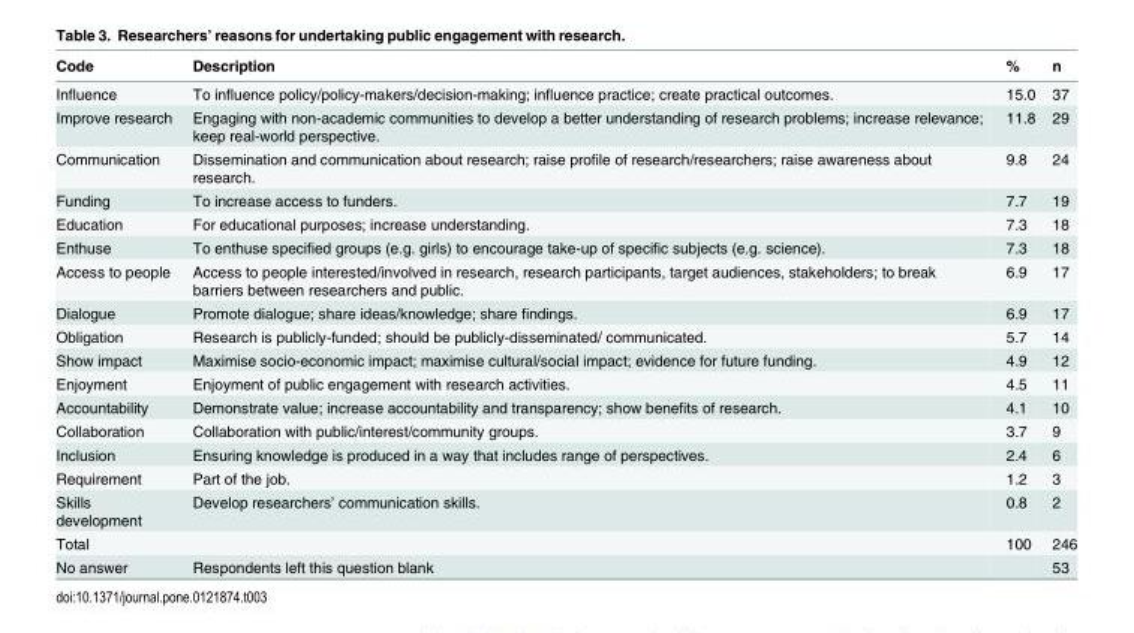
<table><thead><tr><td>Code</td><td>Description</td><td>%</td><td>n</td></tr></thead><tbody><tr><td>Influence</td><td>To influence policy/policy-makers/decision-making; influence practice; create practical outcomes.</td><td>15.0</td><td>37</td></tr><tr><td>Improve research</td><td>Engaging with non-academic communities to develop a better understanding of research problems; increase relevance; keep real-world perspective.</td><td>11.8</td><td>29</td></tr><tr><td>Communication</td><td>Dissemination and communication about research; raise profile of research/researchers; raise awareness about research.</td><td>9.8</td><td>24</td></tr><tr><td>Funding</td><td>To increase access to funders.</td><td>7.7</td><td>19</td></tr><tr><td>Education</td><td>For educational purposes; increase understanding.</td><td>7.3</td><td>18</td></tr><tr><td>Enthuse</td><td>To enthuse specified groups (e.g. girls) to encourage take-up of specific subjects (e.g. science).</td><td>7.3</td><td>18</td></tr><tr><td>Access to people</td><td>Access to people interested/involved in research, research participants, target audiences, stakeholders; to break barriers between researchers and public.</td><td>6.9</td><td>17</td></tr><tr><td>Dialogue</td><td>Promote dialogue; share ideas/knowledge; share findings.</td><td>6.9</td><td>17</td></tr><tr><td>Obligation</td><td>Research is publicly-funded; should be publicly-disseminated/ communicated.</td><td>5.7</td><td>14</td></tr><tr><td>Show impact</td><td>Maximise socio-economic impact; maximise cultural/social impact; evidence for future funding.</td><td>4.9</td><td>12</td></tr><tr><td>Enjoyment</td><td>Enjoyment of public engagement with research activities.</td><td>4.5</td><td>11</td></tr><tr><td>Accountability</td><td>Demonstrate value; increase accountability and transparency; show benefits of research.</td><td>4.1</td><td>10</td></tr><tr><td>Collaboration</td><td>Collaboration with public/interest/community groups.</td><td>3.7</td><td>9</td></tr><tr><td>Inclusion</td><td>Ensuring knowledge is produced in a way that includes range of perspectives.</td><td>2.4</td><td>6</td></tr><tr><td>Requirement</td><td>Part of the job.</td><td>1.2</td><td>3</td></tr><tr><td>Skills development</td><td>Develop researchers’ communication skills.</td><td>0.8</td><td>2</td></tr><tr><td>Total</td><td></td><td>100</td><td>246</td></tr><tr><td>No answer</td><td>Respondents left this question blank</td><td></td><td>53</td></tr></tbody></table>